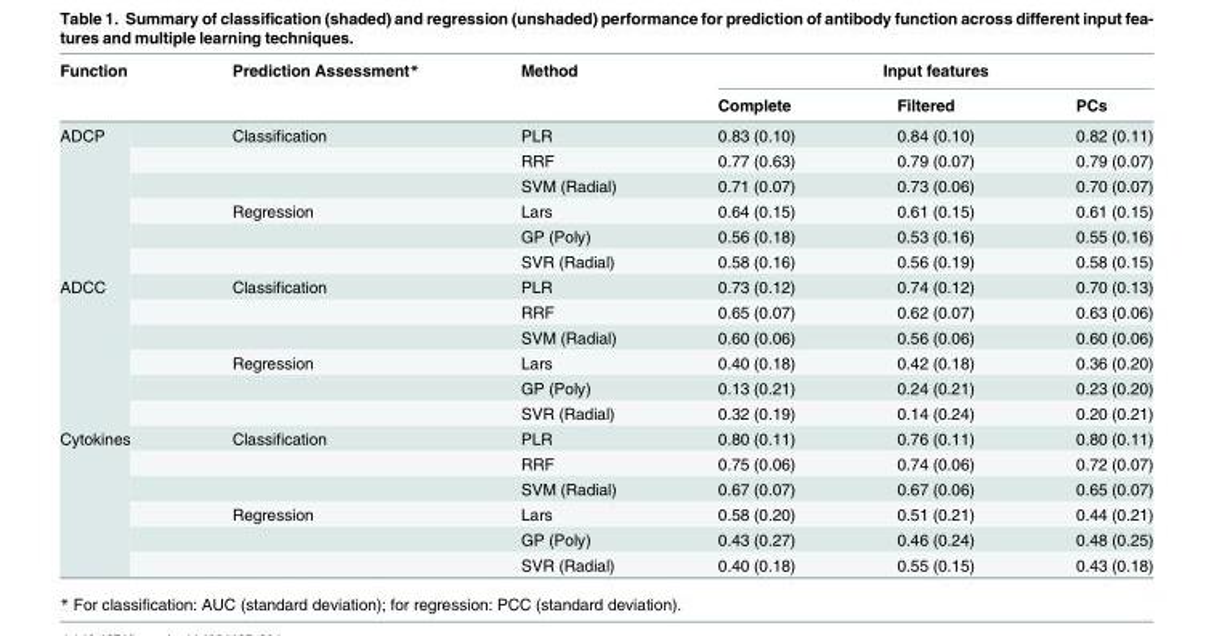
<table><thead><tr><td rowspan="2">Function</td><td rowspan="2">Prediction Assessment*</td><td rowspan="2">Method</td><td colspan="3">Input features</td></tr><tr><td>Complete</td><td>Filtered</td><td>PCs</td></tr></thead><tbody><tr><td rowspan="6">ADCP</td><td>Classification</td><td>PLR</td><td>0.83 (0.10)</td><td>0.84 (0.10)</td><td>0.82 (0.11)</td></tr><tr><td></td><td>RRF</td><td>0.77 (0.63)</td><td>0.79 (0.07)</td><td>0.79 (0.07)</td></tr><tr><td></td><td>SVM (Radial)</td><td>0.71 (0.07)</td><td>0.73 (0.06)</td><td>0.70 (0.07)</td></tr><tr><td>Regression</td><td>Lars</td><td>0.64 (0.15)</td><td>0.61 (0.15)</td><td>0.61 (0.15)</td></tr><tr><td></td><td>GP (Poly)</td><td>0.56 (0.18)</td><td>0.53 (0.16)</td><td>0.55 (0.16)</td></tr><tr><td></td><td>SVR (Radial)</td><td>0.58 (0.16)</td><td>0.56 (0.19)</td><td>0.58 (0.15)</td></tr><tr><td rowspan="6">ADCC</td><td>Classification</td><td>PLR</td><td>0.73 (0.12)</td><td>0.74 (0.12)</td><td>0.70 (0.13)</td></tr><tr><td></td><td>RRF</td><td>0.65 (0.07)</td><td>0.62 (0.07)</td><td>0.63 (0.06)</td></tr><tr><td></td><td>SVM (Radial)</td><td>0.60 (0.06)</td><td>0.56 (0.06)</td><td>0.60 (0.06)</td></tr><tr><td>Regression</td><td>Lars</td><td>0.40 (0.18)</td><td>0.42 (0.18)</td><td>0.36 (0.20)</td></tr><tr><td></td><td>GP (Poly)</td><td>0.13 (0.21)</td><td>0.24 (0.21)</td><td>0.23 (0.20)</td></tr><tr><td></td><td>SVR (Radial)</td><td>0.32 (0.19)</td><td>0.14 (0.24)</td><td>0.20 (0.21)</td></tr><tr><td rowspan="6">Cytokines</td><td>Classification</td><td>PLR</td><td>0.80 (0.11)</td><td>0.76 (0.11)</td><td>0.80 (0.11)</td></tr><tr><td></td><td>RRF</td><td>0.75 (0.06)</td><td>0.74 (0.06)</td><td>0.72 (0.07)</td></tr><tr><td></td><td>SVM (Radial)</td><td>0.67 (0.07)</td><td>0.67 (0.06)</td><td>0.65 (0.07)</td></tr><tr><td>Regression</td><td>Lars</td><td>0.58 (0.20)</td><td>0.51 (0.21)</td><td>0.44 (0.21)</td></tr><tr><td></td><td>GP (Poly)</td><td>0.43 (0.27)</td><td>0.46 (0.24)</td><td>0.48 (0.25)</td></tr><tr><td></td><td>SVR (Radial)</td><td>0.40 (0.18)</td><td>0.55 (0.15)</td><td>0.43 (0.18)</td></tr></tbody></table>